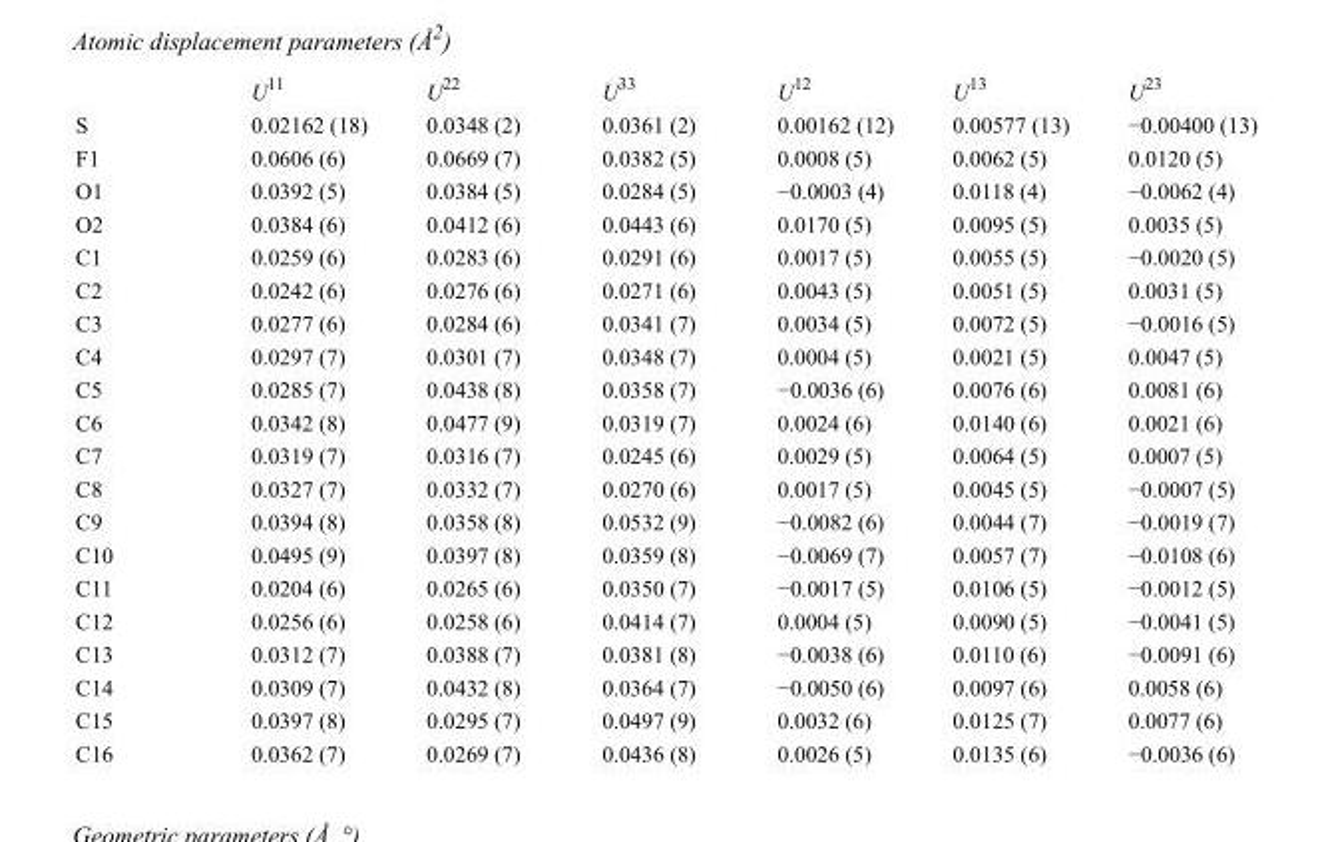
<table><thead><tr><td></td><td>U<sup>11</sup></td><td>U<sup>22</sup></td><td>U<sup>33</sup></td><td>U<sup>12</sup></td><td>U<sup>13</sup></td><td>U<sup>23</sup></td></tr></thead><tbody><tr><td>S</td><td>0.02162 (18)</td><td>0.0348 (2)</td><td>0.0361 (2)</td><td>0.00162 (12)</td><td>0.00577 (13)</td><td>−0.00400 (13)</td></tr><tr><td>F1</td><td>0.0606 (6)</td><td>0.0669 (7)</td><td>0.0382 (5)</td><td>0.0008 (5)</td><td>0.0062 (5)</td><td>0.0120 (5)</td></tr><tr><td>O1</td><td>0.0392 (5)</td><td>0.0384 (5)</td><td>0.0284 (5)</td><td>−0.0003 (4)</td><td>0.0118 (4)</td><td>−0.0062 (4)</td></tr><tr><td>O2</td><td>0.0384 (6)</td><td>0.0412 (6)</td><td>0.0443 (6)</td><td>0.0170 (5)</td><td>0.0095 (5)</td><td>0.0035 (5)</td></tr><tr><td>C1</td><td>0.0259 (6)</td><td>0.0283 (6)</td><td>0.0291 (6)</td><td>0.0017 (5)</td><td>0.0055 (5)</td><td>−0.0020 (5)</td></tr><tr><td>C2</td><td>0.0242 (6)</td><td>0.0276 (6)</td><td>0.0271 (6)</td><td>0.0043 (5)</td><td>0.0051 (5)</td><td>0.0031 (5)</td></tr><tr><td>C3</td><td>0.0277 (6)</td><td>0.0284 (6)</td><td>0.0341 (7)</td><td>0.0034 (5)</td><td>0.0072 (5)</td><td>−0.0016 (5)</td></tr><tr><td>C4</td><td>0.0297 (7)</td><td>0.0301 (7)</td><td>0.0348 (7)</td><td>0.0004 (5)</td><td>0.0021 (5)</td><td>0.0047 (5)</td></tr><tr><td>C5</td><td>0.0285 (7)</td><td>0.0438 (8)</td><td>0.0358 (7)</td><td>−0.0036 (6)</td><td>0.0076 (6)</td><td>0.0081 (6)</td></tr><tr><td>C6</td><td>0.0342 (8)</td><td>0.0477 (9)</td><td>0.0319 (7)</td><td>0.0024 (6)</td><td>0.0140 (6)</td><td>0.0021 (6)</td></tr><tr><td>C7</td><td>0.0319 (7)</td><td>0.0316 (7)</td><td>0.0245 (6)</td><td>0.0029 (5)</td><td>0.0064 (5)</td><td>0.0007 (5)</td></tr><tr><td>C8</td><td>0.0327 (7)</td><td>0.0332 (7)</td><td>0.0270 (6)</td><td>0.0017 (5)</td><td>0.0045 (5)</td><td>−0.0007 (5)</td></tr><tr><td>C9</td><td>0.0394 (8)</td><td>0.0358 (8)</td><td>0.0532 (9)</td><td>−0.0082 (6)</td><td>0.0044 (7)</td><td>−0.0019 (7)</td></tr><tr><td>C10</td><td>0.0495 (9)</td><td>0.0397 (8)</td><td>0.0359 (8)</td><td>−0.0069 (7)</td><td>0.0057 (7)</td><td>−0.0108 (6)</td></tr><tr><td>C11</td><td>0.0204 (6)</td><td>0.0265 (6)</td><td>0.0350 (7)</td><td>−0.0017 (5)</td><td>0.0106 (5)</td><td>−0.0012 (5)</td></tr><tr><td>C12</td><td>0.0256 (6)</td><td>0.0258 (6)</td><td>0.0414 (7)</td><td>0.0004 (5)</td><td>0.0090 (5)</td><td>−0.0041 (5)</td></tr><tr><td>C13</td><td>0.0312 (7)</td><td>0.0388 (7)</td><td>0.0381 (8)</td><td>−0.0038 (6)</td><td>0.0110 (6)</td><td>−0.0091 (6)</td></tr><tr><td>C14</td><td>0.0309 (7)</td><td>0.0432 (8)</td><td>0.0364 (7)</td><td>−0.0050 (6)</td><td>0.0097 (6)</td><td>0.0058 (6)</td></tr><tr><td>C15</td><td>0.0397 (8)</td><td>0.0295 (7)</td><td>0.0497 (9)</td><td>0.0032 (6)</td><td>0.0125 (7)</td><td>0.0077 (6)</td></tr><tr><td>C16</td><td>0.0362 (7)</td><td>0.0269 (7)</td><td>0.0436 (8)</td><td>0.0026 (5)</td><td>0.0135 (6)</td><td>−0.0036 (6)</td></tr></tbody></table>